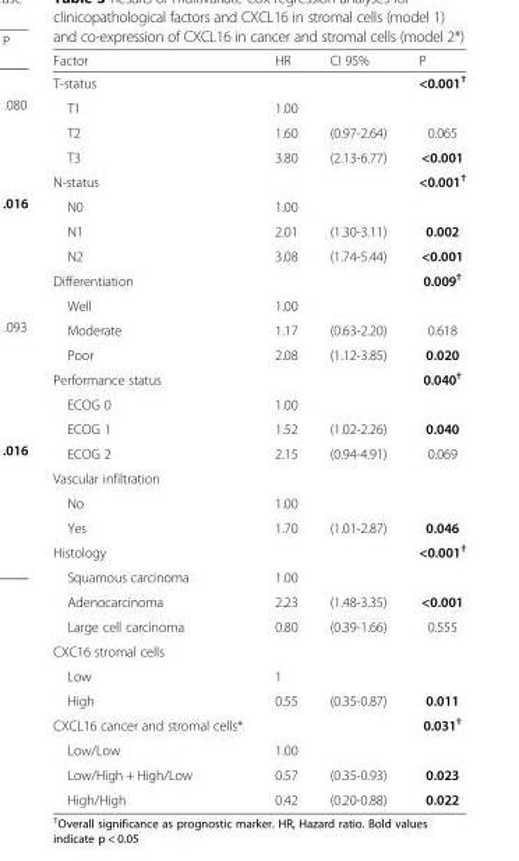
<table><thead><tr><td>Factor</td><td>HR</td><td>CI 95%</td><td>P</td></tr></thead><tbody><tr><td>T-status</td><td></td><td></td><td>&lt;0.001<sup>†</sup></td></tr><tr><td>T1</td><td>1.00</td><td></td><td></td></tr><tr><td>T2</td><td>1.60</td><td>(0.97-2.64)</td><td>0.065</td></tr><tr><td>T3</td><td>3.80</td><td>(2.13-6.77)</td><td>&lt;0.001</td></tr><tr><td>N-status</td><td></td><td></td><td>&lt;0.001<sup>†</sup></td></tr><tr><td>N0</td><td>1.00</td><td></td><td></td></tr><tr><td>N1</td><td>2.01</td><td>(1.30-3.11)</td><td>0.002</td></tr><tr><td>N2</td><td>3.08</td><td>(1.74-5.44)</td><td>&lt;0.001</td></tr><tr><td>Differentiation</td><td></td><td></td><td>0.009<sup>†</sup></td></tr><tr><td>Well</td><td>1.00</td><td></td><td></td></tr><tr><td>Moderate</td><td>1.17</td><td>(0.63-2.20)</td><td>0.618</td></tr><tr><td>Poor</td><td>2.08</td><td>(1.12-3.85)</td><td>0.020</td></tr><tr><td>Performance status</td><td></td><td></td><td>0.040<sup>†</sup></td></tr><tr><td>ECOG 0</td><td>1.00</td><td></td><td></td></tr><tr><td>ECOG 1</td><td>1.52</td><td>(1.02-2.26)</td><td>0.040</td></tr><tr><td>ECOG 2</td><td>2.15</td><td>(0.94-4.91)</td><td>0.069</td></tr><tr><td colspan="4">Vascular infiltration</td></tr><tr><td>No</td><td>1.00</td><td></td><td></td></tr><tr><td>Yes</td><td>1.70</td><td>(1.01-2.87)</td><td>0.046</td></tr><tr><td>Histology</td><td></td><td></td><td>&lt;0.001<sup>†</sup></td></tr><tr><td>Squamous carcinoma</td><td>1.00</td><td></td><td></td></tr><tr><td>Adenocarcinoma</td><td>2.23</td><td>(1.48-3.35)</td><td>&lt;0.001</td></tr><tr><td>Large cell carcinoma</td><td>0.80</td><td>(0.39-1.66)</td><td>0.555</td></tr><tr><td colspan="4">CXC16 stromal cells</td></tr><tr><td>Low</td><td>1</td><td></td><td></td></tr><tr><td>High</td><td>0.55</td><td>(0.35-0.87)</td><td>0.011</td></tr><tr><td>CXCL16 cancer and stromal cells*</td><td></td><td></td><td>0.031<sup>†</sup></td></tr><tr><td>Low/Low</td><td>1.00</td><td></td><td></td></tr><tr><td>Low/High + High/Low</td><td>0.57</td><td>(0.35-0.93)</td><td>0.023</td></tr><tr><td>High/High</td><td>0.42</td><td>(0.20-0.88)</td><td>0.022</td></tr></tbody></table>